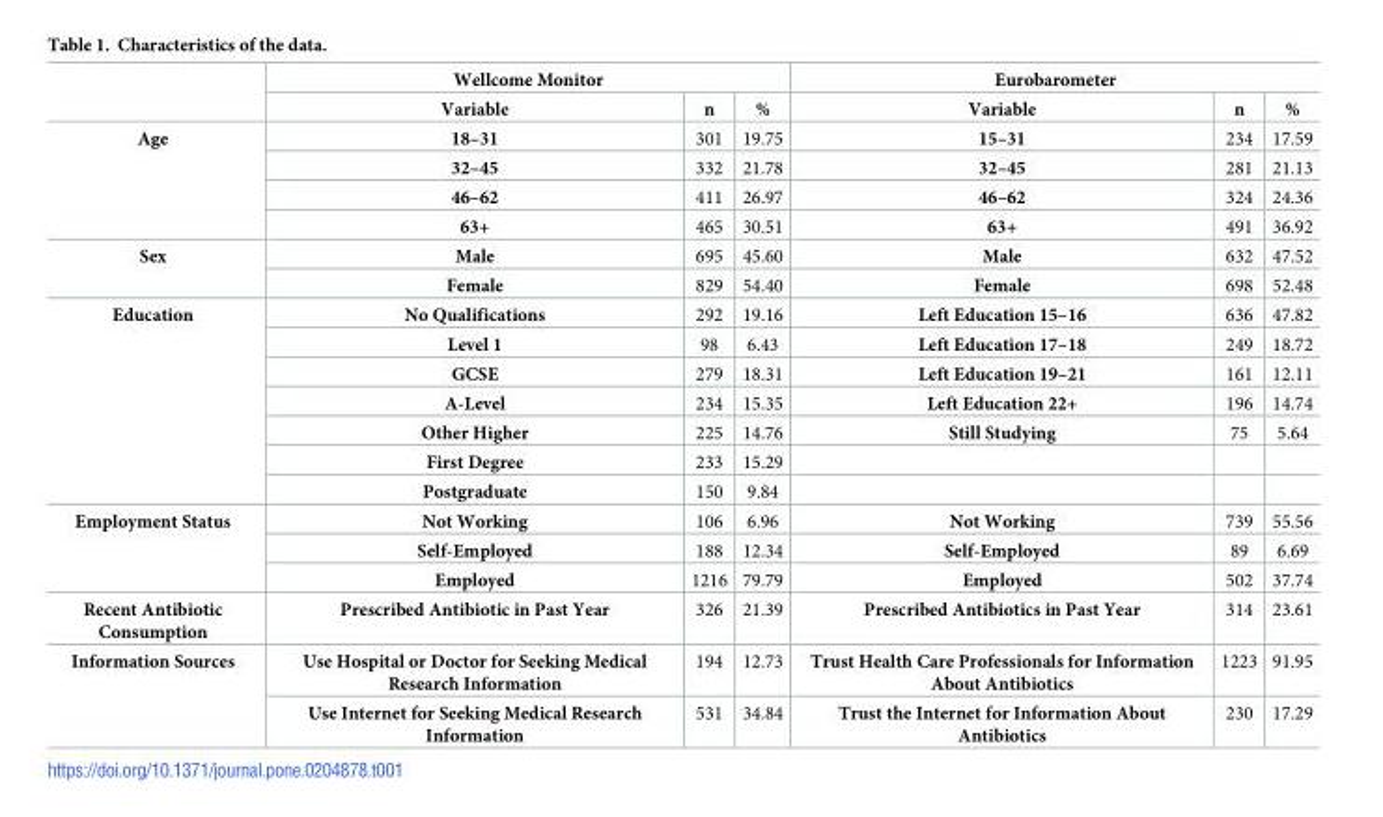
<table><thead><tr><td rowspan="2"></td><td colspan="3">Wellcome Monitor</td><td colspan="3">Eurobarometer</td></tr><tr><td>Variable</td><td>n</td><td>%</td><td>Variable</td><td>n</td><td>%</td></tr></thead><tbody><tr><td rowspan="4">Age</td><td>18–31</td><td>301</td><td>19.75</td><td>15–31</td><td>234</td><td>17.59</td></tr><tr><td>32–45</td><td>332</td><td>21.78</td><td>32–45</td><td>281</td><td>21.13</td></tr><tr><td>46–62</td><td>411</td><td>26.97</td><td>46–62</td><td>324</td><td>24.36</td></tr><tr><td>63+</td><td>465</td><td>30.51</td><td>63+</td><td>491</td><td>36.92</td></tr><tr><td rowspan="2">Sex</td><td>Male</td><td>695</td><td>45.60</td><td>Male</td><td>632</td><td>47.52</td></tr><tr><td>Female</td><td>829</td><td>54.40</td><td>Female</td><td>698</td><td>52.48</td></tr><tr><td rowspan="7">Education</td><td>No Qualifications</td><td>292</td><td>19.16</td><td>Left Education 15–16</td><td>636</td><td>47.82</td></tr><tr><td>Level 1</td><td>98</td><td>6.43</td><td>Left Education 17–18</td><td>249</td><td>18.72</td></tr><tr><td>GCSE</td><td>279</td><td>18.31</td><td>Left Education 19–21</td><td>161</td><td>12.11</td></tr><tr><td>A-Level</td><td>234</td><td>15.35</td><td>Left Education 22+</td><td>196</td><td>14.74</td></tr><tr><td>Other Higher</td><td>225</td><td>14.76</td><td>Still Studying</td><td>75</td><td>5.64</td></tr><tr><td>First Degree</td><td>233</td><td>15.29</td><td></td><td></td><td></td></tr><tr><td>Postgraduate</td><td>150</td><td>9.84</td><td></td><td></td><td></td></tr><tr><td rowspan="3">Employment Status</td><td>Not Working</td><td>106</td><td>6.96</td><td>Not Working</td><td>739</td><td>55.56</td></tr><tr><td>Self-Employed</td><td>188</td><td>12.34</td><td>Self-Employed</td><td>89</td><td>6.69</td></tr><tr><td>Employed</td><td>1216</td><td>79.79</td><td>Employed</td><td>502</td><td>37.74</td></tr><tr><td>Recent Antibiotic Consumption</td><td>Prescribed Antibiotic in Past Year</td><td>326</td><td>21.39</td><td>Prescribed Antibiotics in Past Year</td><td>314</td><td>23.61</td></tr><tr><td rowspan="2">Information Sources</td><td>Use Hospital or Doctor for Seeking Medical Research Information</td><td>194</td><td>12.73</td><td>Trust Health Care Professionals for Information About Antibiotics</td><td>1223</td><td>91.95</td></tr><tr><td>Use Internet for Seeking Medical Research Information</td><td>531</td><td>34.84</td><td>Trust the Internet for Information About Antibiotics</td><td>230</td><td>17.29</td></tr></tbody></table>